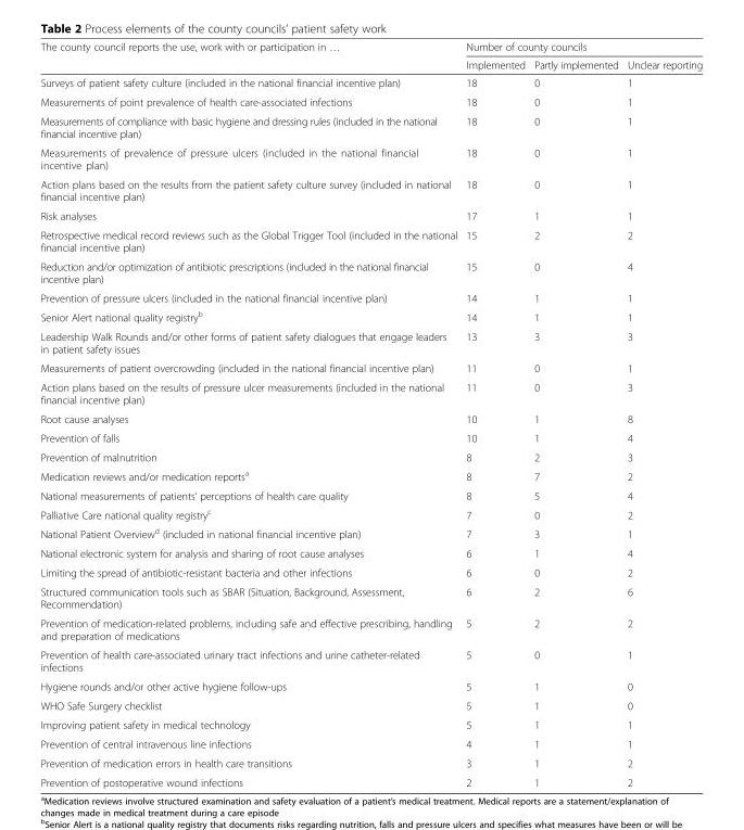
<table><thead><tr><td rowspan="2">The county council reports the use, work with or participation in …</td><td colspan="3">Number of county councils</td></tr><tr><td>Implemented</td><td>Partly implemented</td><td>Unclear reporting</td></tr></thead><tbody><tr><td>Surveys of patient safety culture (included in the national financial incentive plan)</td><td>18</td><td>0</td><td>1</td></tr><tr><td>Measurements of point prevalence of health care-associated infections</td><td>18</td><td>0</td><td>1</td></tr><tr><td>Measurements of compliance with basic hygiene and dressing rules (included in the national financial incentive plan)</td><td>18</td><td>0</td><td>1</td></tr><tr><td>Measurements of prevalence of pressure ulcers (included in the national financial incentive plan)</td><td>18</td><td>0</td><td>1</td></tr><tr><td>Action plans based on the results from the patient safety culture survey (included in national financial incentive plan)</td><td>18</td><td>0</td><td>1</td></tr><tr><td>Risk analyses</td><td>17</td><td>1</td><td>1</td></tr><tr><td>Retrospective medical record reviews such as the Global Trigger Tool (included in the national financial incentive plan)</td><td>15</td><td>2</td><td>2</td></tr><tr><td>Reduction and/or optimization of antibiotic prescriptions (included in the national financial incentive plan)</td><td>15</td><td>0</td><td>4</td></tr><tr><td>Prevention of pressure ulcers (included in the national financial incentive plan)</td><td>14</td><td>1</td><td>1</td></tr><tr><td>Senior Alert national quality registry<sup>b</sup></td><td>14</td><td>1</td><td>1</td></tr><tr><td>Leadership Walk Rounds and/or other forms of patient safety dialogues that engage leaders in patient safety issues</td><td>13</td><td>3</td><td>3</td></tr><tr><td>Measurements of patient overcrowding (included in the national financial incentive plan)</td><td>11</td><td>0</td><td>1</td></tr><tr><td>Action plans based on the results of pressure ulcer measurements (included in the national financial incentive plan)</td><td>11</td><td>0</td><td>3</td></tr><tr><td>Root cause analyses</td><td>10</td><td>1</td><td>8</td></tr><tr><td>Prevention of falls</td><td>10</td><td>1</td><td>4</td></tr><tr><td>Prevention of malnutrition</td><td>8</td><td>2</td><td>3</td></tr><tr><td>Medication reviews and/or medication reports<sup>a</sup></td><td>8</td><td>7</td><td>2</td></tr><tr><td>National measurements of patients’ perceptions of health care quality</td><td>8</td><td>5</td><td>4</td></tr><tr><td>Palliative Care national quality registry<sup>c</sup></td><td>7</td><td>0</td><td>2</td></tr><tr><td>National Patient Overview<sup>d</sup> (included in national financial incentive plan)</td><td>7</td><td>3</td><td>1</td></tr><tr><td>National electronic system for analysis and sharing of root cause analyses</td><td>6</td><td>1</td><td>4</td></tr><tr><td>Limiting the spread of antibiotic-resistant bacteria and other infections</td><td>6</td><td>0</td><td>2</td></tr><tr><td>Structured communication tools such as SBAR (Situation, Background, Assessment, Recommendation)</td><td>6</td><td>2</td><td>6</td></tr><tr><td>Prevention of medication-related problems, including safe and effective prescribing, handling and preparation of medications</td><td>5</td><td>2</td><td>2</td></tr><tr><td>Prevention of health care-associated urinary tract infections and urine catheter-related infections</td><td>5</td><td>0</td><td>1</td></tr><tr><td>Hygiene rounds and/or other active hygiene follow-ups</td><td>5</td><td>1</td><td>0</td></tr><tr><td>WHO Safe Surgery checklist</td><td>5</td><td>1</td><td>0</td></tr><tr><td>Improving patient safety in medical technology</td><td>5</td><td>1</td><td>1</td></tr><tr><td>Prevention of central intravenous line infections</td><td>4</td><td>1</td><td>1</td></tr><tr><td>Prevention of medication errors in health care transitions</td><td>3</td><td>1</td><td>2</td></tr><tr><td>Prevention of postoperative wound infections</td><td>2</td><td>1</td><td>2</td></tr></tbody></table>